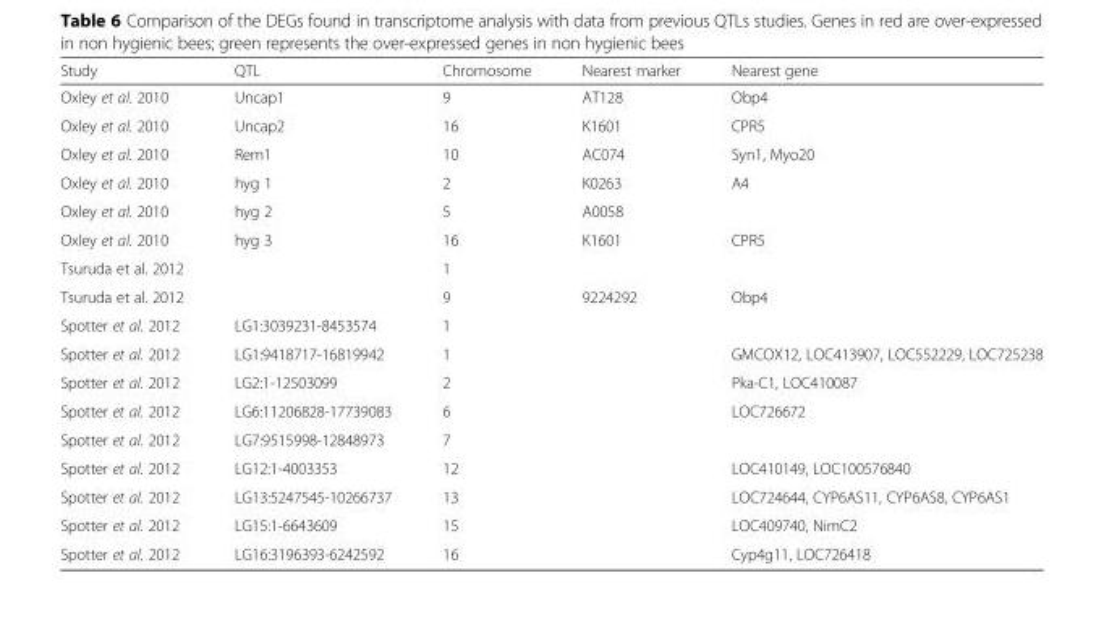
<table><thead><tr><td>Study</td><td>QTL</td><td>Chromosome</td><td>Nearest marker</td><td>Nearest gene</td></tr></thead><tbody><tr><td>Oxley et al. 2010</td><td>Uncap1</td><td>9</td><td>AT128</td><td>Obp4</td></tr><tr><td>Oxley et al. 2010</td><td>Uncap2</td><td>16</td><td>K1601</td><td>CPR5</td></tr><tr><td>Oxley et al. 2010</td><td>Rem1</td><td>10</td><td>AC074</td><td>Syn1, Myo20</td></tr><tr><td>Oxley et al. 2010</td><td>hyg 1</td><td>2</td><td>K0263</td><td>A4</td></tr><tr><td>Oxley et al. 2010</td><td>hyg 2</td><td>5</td><td>A0058</td><td></td></tr><tr><td>Oxley et al. 2010</td><td>hyg 3</td><td>16</td><td>K1601</td><td>CPR5</td></tr><tr><td>Tsuruda et al. 2012</td><td></td><td>1</td><td></td><td></td></tr><tr><td>Tsuruda et al. 2012</td><td></td><td>9</td><td>9224292</td><td>Obp4</td></tr><tr><td>Spotter et al. 2012</td><td>LG1:3039231-8453574</td><td>1</td><td></td><td></td></tr><tr><td>Spotter et al. 2012</td><td>LG1:9418717-16819942</td><td>1</td><td></td><td>GMCOX12, LOC413907, LOC552229, LOC725238</td></tr><tr><td>Spotter et al. 2012</td><td>LG2:1-12503099</td><td>2</td><td></td><td>Pka-C1, LOC410087</td></tr><tr><td>Spotter et al. 2012</td><td>LG6:11206828-17739083</td><td>6</td><td></td><td>LOC726672</td></tr><tr><td>Spotter et al. 2012</td><td>LG7:9515998-12848973</td><td>7</td><td></td><td></td></tr><tr><td>Spotter et al. 2012</td><td>LG12:1-4003353</td><td>12</td><td></td><td>LOC410149, LOC100576840</td></tr><tr><td>Spotter et al. 2012</td><td>LG13:5247545-10266737</td><td>13</td><td></td><td>LOC724644, CYP6AS11, CYP6AS8, CYP6AS1</td></tr><tr><td>Spotter et al. 2012</td><td>LG15:1-6643609</td><td>15</td><td></td><td>LOC409740, NimC2</td></tr><tr><td>Spotter et al. 2012</td><td>LG16:3196393-6242592</td><td>16</td><td></td><td>Cyp4g11, LOC726418</td></tr></tbody></table>